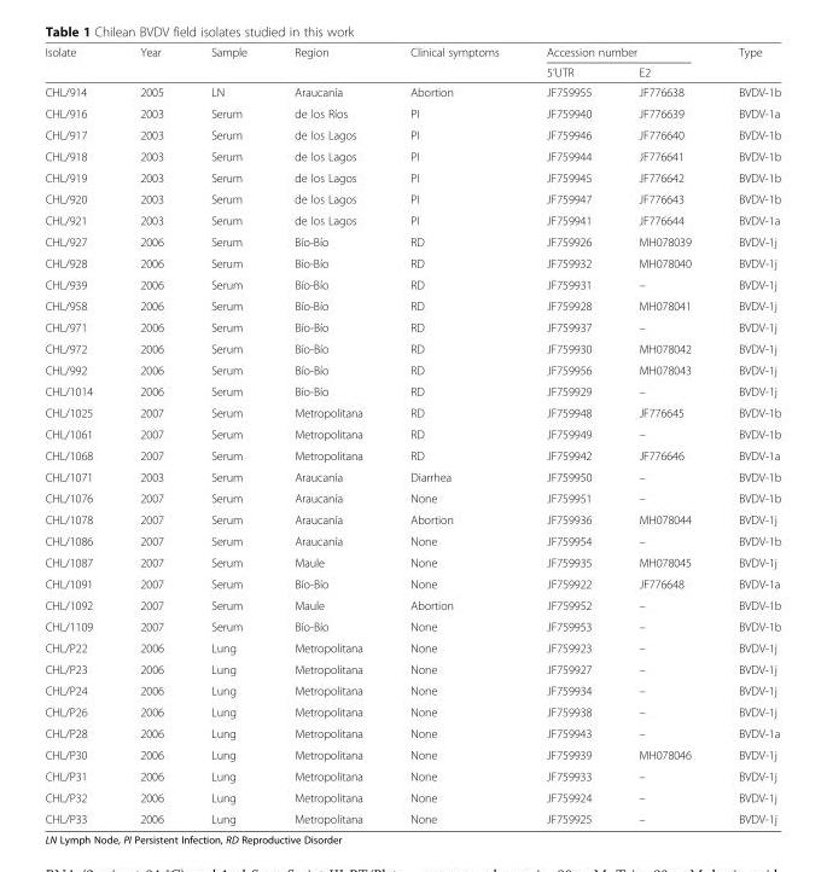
<table><thead><tr><td rowspan="2">Isolate</td><td rowspan="2">Year</td><td rowspan="2">Sample</td><td rowspan="2">Region</td><td rowspan="2">Clinical symptoms</td><td colspan="2">Accession number</td><td rowspan="2">Type</td></tr><tr><td>5’UTR</td><td>E2</td></tr></thead><tbody><tr><td>CHL/914</td><td>2005</td><td>LN</td><td>Araucanía</td><td>Abortion</td><td>JF759955</td><td>JF776638</td><td>BVDV-1b</td></tr><tr><td>CHL/916</td><td>2003</td><td>Serum</td><td>de los Ríos</td><td>PI</td><td>JF759940</td><td>JF776639</td><td>BVDV-1a</td></tr><tr><td>CHL/917</td><td>2003</td><td>Serum</td><td>de los Lagos</td><td>PI</td><td>JF759946</td><td>JF776640</td><td>BVDV-1b</td></tr><tr><td>CHL/918</td><td>2003</td><td>Serum</td><td>de los Lagos</td><td>PI</td><td>JF759944</td><td>JF776641</td><td>BVDV-1b</td></tr><tr><td>CHL/919</td><td>2003</td><td>Serum</td><td>de los Lagos</td><td>PI</td><td>JF759945</td><td>JF776642</td><td>BVDV-1b</td></tr><tr><td>CHL/920</td><td>2003</td><td>Serum</td><td>de los Lagos</td><td>PI</td><td>JF759947</td><td>JF776643</td><td>BVDV-1b</td></tr><tr><td>CHL/921</td><td>2003</td><td>Serum</td><td>de los Lagos</td><td>PI</td><td>JF759941</td><td>JF776644</td><td>BVDV-1a</td></tr><tr><td>CHL/927</td><td>2006</td><td>Serum</td><td>Bío-Bío</td><td>RD</td><td>JF759926</td><td>MH078039</td><td>BVDV-1j</td></tr><tr><td>CHL/928</td><td>2006</td><td>Serum</td><td>Bío-Bío</td><td>RD</td><td>JF759932</td><td>MH078040</td><td>BVDV-1j</td></tr><tr><td>CHL/939</td><td>2006</td><td>Serum</td><td>Bío-Bío</td><td>RD</td><td>JF759931</td><td>–</td><td>BVDV-1j</td></tr><tr><td>CHL/958</td><td>2006</td><td>Serum</td><td>Bío-Bío</td><td>RD</td><td>JF759928</td><td>MH078041</td><td>BVDV-1j</td></tr><tr><td>CHL/971</td><td>2006</td><td>Serum</td><td>Bío-Bío</td><td>RD</td><td>JF759937</td><td>–</td><td>BVDV-1j</td></tr><tr><td>CHL/972</td><td>2006</td><td>Serum</td><td>Bío-Bío</td><td>RD</td><td>JF759930</td><td>MH078042</td><td>BVDV-1j</td></tr><tr><td>CHL/992</td><td>2006</td><td>Serum</td><td>Bío-Bío</td><td>RD</td><td>JF759956</td><td>MH078043</td><td>BVDV-1j</td></tr><tr><td>CHL/1014</td><td>2006</td><td>Serum</td><td>Bío-Bío</td><td>RD</td><td>JF759929</td><td>–</td><td>BVDV-1j</td></tr><tr><td>CHL/1025</td><td>2007</td><td>Serum</td><td>Metropolitana</td><td>RD</td><td>JF759948</td><td>JF776645</td><td>BVDV-1b</td></tr><tr><td>CHL/1061</td><td>2007</td><td>Serum</td><td>Metropolitana</td><td>RD</td><td>JF759949</td><td>–</td><td>BVDV-1b</td></tr><tr><td>CHL/1068</td><td>2007</td><td>Serum</td><td>Metropolitana</td><td>RD</td><td>JF759942</td><td>JF776646</td><td>BVDV-1a</td></tr><tr><td>CHL/1071</td><td>2003</td><td>Serum</td><td>Araucanía</td><td>Diarrhea</td><td>JF759950</td><td>–</td><td>BVDV-1b</td></tr><tr><td>CHL/1076</td><td>2007</td><td>Serum</td><td>Araucanía</td><td>None</td><td>JF759951</td><td>–</td><td>BVDV-1b</td></tr><tr><td>CHL/1078</td><td>2007</td><td>Serum</td><td>Araucanía</td><td>Abortion</td><td>JF759936</td><td>MH078044</td><td>BVDV-1j</td></tr><tr><td>CHL/1086</td><td>2007</td><td>Serum</td><td>Araucanía</td><td>None</td><td>JF759954</td><td>–</td><td>BVDV-1b</td></tr><tr><td>CHL/1087</td><td>2007</td><td>Serum</td><td>Maule</td><td>None</td><td>JF759935</td><td>MH078045</td><td>BVDV-1j</td></tr><tr><td>CHL/1091</td><td>2007</td><td>Serum</td><td>Bío-Bío</td><td>None</td><td>JF759922</td><td>JF776648</td><td>BVDV-1a</td></tr><tr><td>CHL/1092</td><td>2007</td><td>Serum</td><td>Maule</td><td>Abortion</td><td>JF759952</td><td>–</td><td>BVDV-1b</td></tr><tr><td>CHL/1109</td><td>2007</td><td>Serum</td><td>Bío-Bío</td><td>None</td><td>JF759953</td><td>–</td><td>BVDV-1b</td></tr><tr><td>CHL/P22</td><td>2006</td><td>Lung</td><td>Metropolitana</td><td>None</td><td>JF759923</td><td>–</td><td>BVDV-1j</td></tr><tr><td>CHL/P23</td><td>2006</td><td>Lung</td><td>Metropolitana</td><td>None</td><td>JF759927</td><td>–</td><td>BVDV-1j</td></tr><tr><td>CHL/P24</td><td>2006</td><td>Lung</td><td>Metropolitana</td><td>None</td><td>JF759934</td><td>–</td><td>BVDV-1j</td></tr><tr><td>CHL/P26</td><td>2006</td><td>Lung</td><td>Metropolitana</td><td>None</td><td>JF759938</td><td>–</td><td>BVDV-1j</td></tr><tr><td>CHL/P28</td><td>2006</td><td>Lung</td><td>Metropolitana</td><td>None</td><td>JF759943</td><td>–</td><td>BVDV-1a</td></tr><tr><td>CHL/P30</td><td>2006</td><td>Lung</td><td>Metropolitana</td><td>None</td><td>JF759939</td><td>MH078046</td><td>BVDV-1j</td></tr><tr><td>CHL/P31</td><td>2006</td><td>Lung</td><td>Metropolitana</td><td>None</td><td>JF759933</td><td>–</td><td>BVDV-1j</td></tr><tr><td>CHL/P32</td><td>2006</td><td>Lung</td><td>Metropolitana</td><td>None</td><td>JF759924</td><td>–</td><td>BVDV-1j</td></tr><tr><td>CHL/P33</td><td>2006</td><td>Lung</td><td>Metropolitana</td><td>None</td><td>JF759925</td><td>–</td><td>BVDV-1j</td></tr></tbody></table>